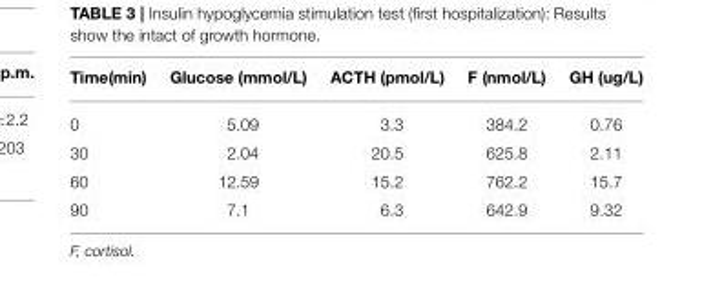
<table><thead><tr><td>Time(min)</td><td>Glucose (mmol/L)</td><td>ACTH (pmol/L)</td><td>F (nmol/L)</td><td>GH (ug/L)</td></tr></thead><tbody><tr><td>0</td><td>5.09</td><td>3.3</td><td>384.2</td><td>0.76</td></tr><tr><td>30</td><td>2.04</td><td>20.5</td><td>625.8</td><td>2.11</td></tr><tr><td>60</td><td>12.59</td><td>15.2</td><td>762.2</td><td>15.7</td></tr><tr><td>90</td><td>7.1</td><td>6.3</td><td>642.9</td><td>9.32</td></tr></tbody></table>